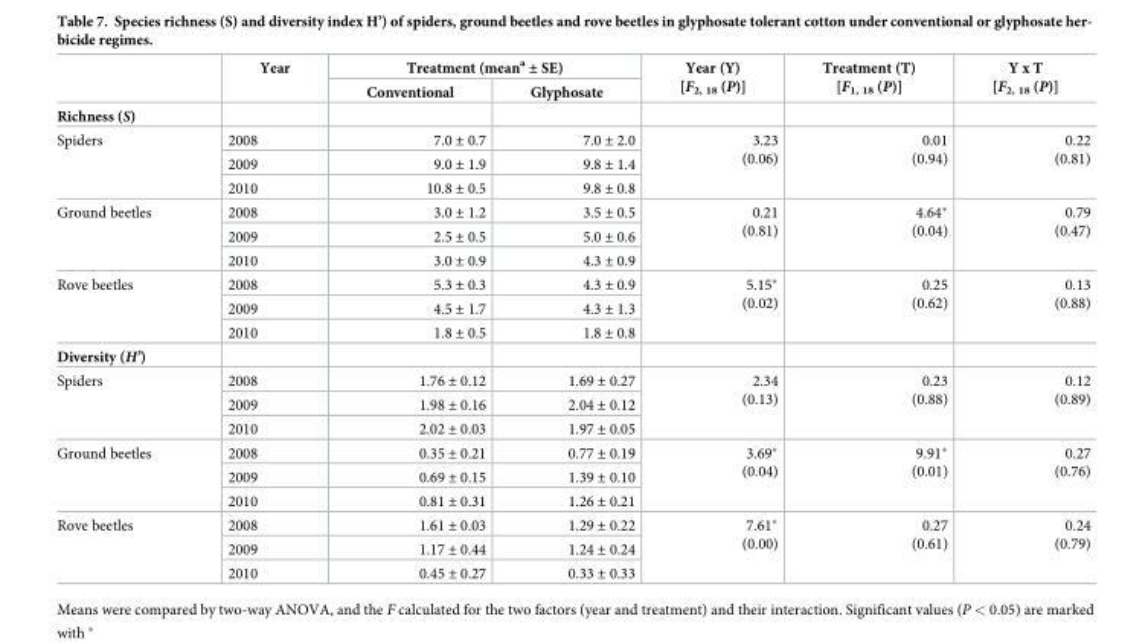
<table><thead><tr><td rowspan="2"></td><td rowspan="2">Year</td><td colspan="2">Treatment (mean<sup>a</sup> ± SE)</td><td rowspan="2">Year (Y) [F<sub>2, 18</sub> (P)]</td><td rowspan="2">Treatment (T) [F<sub>1, 18</sub> (P)]</td><td rowspan="2">Y x T [F<sub>2, 18</sub> (P)]</td></tr><tr><td>Conventional</td><td>Glyphosate</td></tr></thead><tbody><tr><td colspan="7">Richness (S)</td></tr><tr><td rowspan="3">Spiders</td><td>2008</td><td>7.0 ± 0.7</td><td>7.0 ± 2.0</td><td rowspan="3">3.23 (0.06)</td><td rowspan="3">0.01 (0.94)</td><td rowspan="3">0.22 (0.81)</td></tr><tr><td>2009</td><td>9.0 ± 1.9</td><td>9.8 ± 1.4</td></tr><tr><td>2010</td><td>10.8 ± 0.5</td><td>9.8 ± 0.8</td></tr><tr><td rowspan="3">Ground beetles</td><td>2008</td><td>3.0 ± 1.2</td><td>3.5 ± 0.5</td><td rowspan="3">0.21 (0.81)</td><td rowspan="3">4.64* (0.04)</td><td rowspan="3">0.79 (0.47)</td></tr><tr><td>2009</td><td>2.5 ± 0.5</td><td>5.0 ± 0.6</td></tr><tr><td>2010</td><td>3.0 ± 0.9</td><td>4.3 ± 0.9</td></tr><tr><td rowspan="3">Rove beetles</td><td>2008</td><td>5.3 ± 0.3</td><td>4.3 ± 0.9</td><td rowspan="3">5.15* (0.02)</td><td rowspan="3">0.25 (0.62)</td><td rowspan="3">0.13 (0.88)</td></tr><tr><td>2009</td><td>4.5 ± 1.7</td><td>4.3 ± 1.3</td></tr><tr><td>2010</td><td>1.8 ± 0.5</td><td>1.8 ± 0.8</td></tr><tr><td colspan="7">Diversity (H’)</td></tr><tr><td rowspan="3">Spiders</td><td>2008</td><td>1.76 ± 0.12</td><td>1.69 ± 0.27</td><td rowspan="3">2.34 (0.13)</td><td rowspan="3">0.23 (0.88)</td><td rowspan="3">0.12 (0.89)</td></tr><tr><td>2009</td><td>1.98 ± 0.16</td><td>2.04 ± 0.12</td></tr><tr><td>2010</td><td>2.02 ± 0.03</td><td>1.97 ± 0.05</td></tr><tr><td rowspan="3">Ground beetles</td><td>2008</td><td>0.35 ± 0.21</td><td>0.77 ± 0.19</td><td rowspan="3">3.69* (0.04)</td><td rowspan="3">9.91* (0.01)</td><td rowspan="3">0.27 (0.76)</td></tr><tr><td>2009</td><td>0.69 ± 0.15</td><td>1.39 ± 0.10</td></tr><tr><td>2010</td><td>0.81 ± 0.31</td><td>1.26 ± 0.21</td></tr><tr><td rowspan="3">Rove beetles</td><td>2008</td><td>1.61 ± 0.03</td><td>1.29 ± 0.22</td><td rowspan="3">7.61* (0.00)</td><td rowspan="3">0.27 (0.61)</td><td rowspan="3">0.24 (0.79)</td></tr><tr><td>2009</td><td>1.17 ± 0.44</td><td>1.24 ± 0.24</td></tr><tr><td>2010</td><td>0.45 ± 0.27</td><td>0.33 ± 0.33</td></tr></tbody></table>